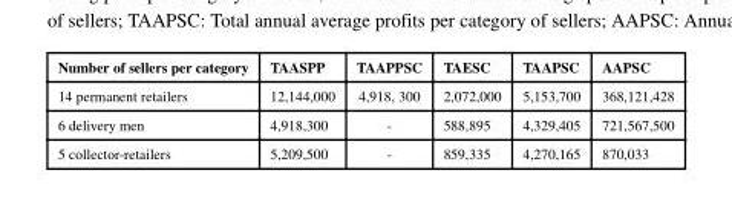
<table><thead><tr><td>Number of sellers per category</td><td>TAASPP</td><td>TAAPPSC</td><td>TAESC</td><td>TAAPSC</td><td>AAPSC</td></tr></thead><tbody><tr><td>14 permanent retailers</td><td>12,144,000</td><td>4,918, 300</td><td>2,072,000</td><td>5,153,700</td><td>368,121,428</td></tr><tr><td>6 delivery men</td><td>4,918,300</td><td>-</td><td>588,895</td><td>4,329,405</td><td>721,567,500</td></tr><tr><td>5 collector-retailers</td><td>5,209,500</td><td>-</td><td>859,335</td><td>4,270,165</td><td>870,033</td></tr></tbody></table>